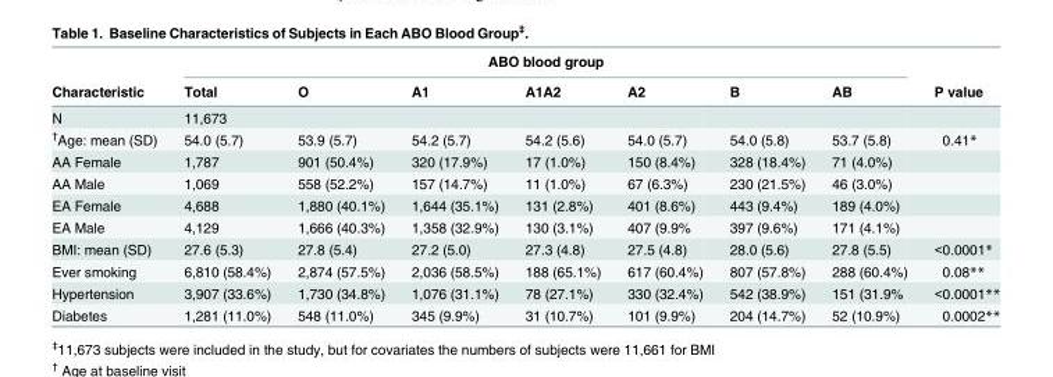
<table><thead><tr><td rowspan="2">Characteristic</td><td colspan="7">ABO blood group</td><td rowspan="2">P value</td></tr><tr><td>Total</td><td>O</td><td>A1</td><td>A1A2</td><td>A2</td><td>B</td><td>AB</td></tr></thead><tbody><tr><td>N</td><td>11,673</td><td></td><td></td><td></td><td></td><td></td><td></td><td></td></tr><tr><td><sup>†</sup>Age: mean (SD)</td><td>54.0 (5.7)</td><td>53.9 (5.7)</td><td>54.2 (5.7)</td><td>54.2 (5.6)</td><td>54.0 (5.7)</td><td>54.0 (5.8)</td><td>53.7 (5.8)</td><td>0.41*</td></tr><tr><td>AA Female</td><td>1,787</td><td>901 (50.4%)</td><td>320 (17.9%)</td><td>17 (1.0%)</td><td>150 (8.4%)</td><td>328 (18.4%)</td><td>71 (4.0%)</td><td></td></tr><tr><td>AA Male</td><td>1,069</td><td>558 (52.2%)</td><td>157 (14.7%)</td><td>11 (1.0%)</td><td>67 (6.3%)</td><td>230 (21.5%)</td><td>46 (3.0%)</td><td></td></tr><tr><td>EA Female</td><td>4,688</td><td>1,880 (40.1%)</td><td>1,644 (35.1%)</td><td>131 (2.8%)</td><td>401 (8.6%)</td><td>443 (9.4%)</td><td>189 (4.0%)</td><td></td></tr><tr><td>EA Male</td><td>4,129</td><td>1,666 (40.3%)</td><td>1,358 (32.9%)</td><td>130 (3.1%)</td><td>407 (9.9%</td><td>397 (9.6%)</td><td>171 (4.1%)</td><td></td></tr><tr><td>BMI: mean (SD)</td><td>27.6 (5.3)</td><td>27.8 (5.4)</td><td>27.2 (5.0)</td><td>27.3 (4.8)</td><td>27.5 (4.8)</td><td>28.0 (5.6)</td><td>27.8 (5.5)</td><td>&lt;0.0001*</td></tr><tr><td>Ever smoking</td><td>6,810 (58.4%)</td><td>2,874 (57.5%)</td><td>2,036 (58.5%)</td><td>188 (65.1%)</td><td>617 (60.4%)</td><td>807 (57.8%)</td><td>288 (60.4%)</td><td>0.08**</td></tr><tr><td>Hypertension</td><td>3,907 (33.6%)</td><td>1,730 (34.8%)</td><td>1,076 (31.1%)</td><td>78 (27.1%)</td><td>330 (32.4%)</td><td>542 (38.9%)</td><td>151 (31.9%</td><td>&lt;0.0001**</td></tr><tr><td>Diabetes</td><td>1,281 (11.0%)</td><td>548 (11.0%)</td><td>345 (9.9%)</td><td>31 (10.7%)</td><td>101 (9.9%)</td><td>204 (14.7%)</td><td>52 (10.9%)</td><td>0.0002**</td></tr></tbody></table>